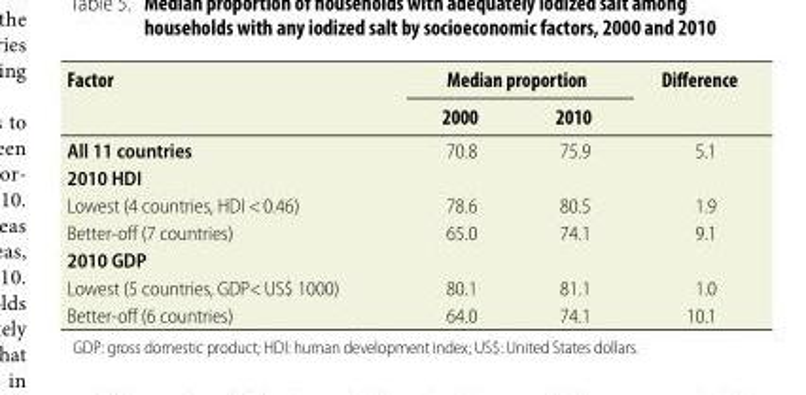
<table><thead><tr><td rowspan="2">Factor</td><td colspan="2">Median proportion</td><td rowspan="2">Difference</td></tr><tr><td>2000</td><td>2010</td></tr></thead><tbody><tr><td>All 11 countries</td><td>70.8</td><td>75.9</td><td>5.1</td></tr><tr><td colspan="4">2010 HDI</td></tr><tr><td>Lowest (4 countries, HDI &lt; 0.46)</td><td>78.6</td><td>80.5</td><td>1.9</td></tr><tr><td>Better-off (7 countries)</td><td>65.0</td><td>74.1</td><td>9.1</td></tr><tr><td colspan="4">2010 GDP</td></tr><tr><td>Lowest (5 countries, GDP&lt; US$ 1000)</td><td>80.1</td><td>81.1</td><td>1.0</td></tr><tr><td>Better-off (6 countries)</td><td>64.0</td><td>74.1</td><td>10.1</td></tr></tbody></table>